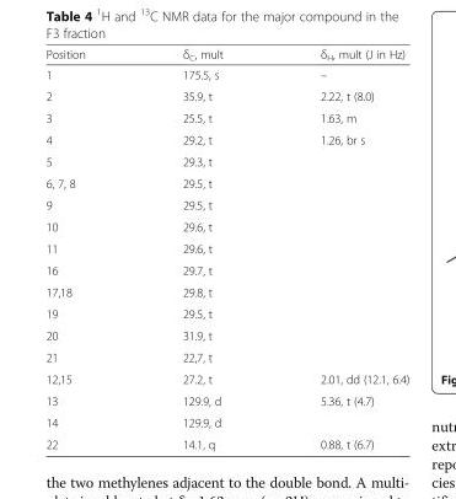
<table><thead><tr><td>Position</td><td>δ<sub>C</sub>, mult</td><td>δ<sub>H</sub>, mult (J in Hz)</td></tr></thead><tbody><tr><td>1</td><td>175.5, s</td><td>–</td></tr><tr><td>2</td><td>35.9, t</td><td>2.22, t (8.0)</td></tr><tr><td>3</td><td>25.5, t</td><td>1.63, m</td></tr><tr><td>4</td><td>29.2, t</td><td rowspan="11">1.26, br s</td></tr><tr><td>5</td><td>29.3, t</td></tr><tr><td>6, 7, 8</td><td>29.5, t</td></tr><tr><td>9</td><td>29.5, t</td></tr><tr><td>10</td><td>29.6, t</td></tr><tr><td>11</td><td>29.6, t</td></tr><tr><td>16</td><td>29.7, t</td></tr><tr><td>17,18</td><td>29.8, t</td></tr><tr><td>19</td><td>29.5, t</td></tr><tr><td>20</td><td>31.9, t</td></tr><tr><td>21</td><td>22,7, t</td></tr><tr><td>12,15</td><td>27.2, t</td><td>2.01, dd (12.1, 6.4)</td></tr><tr><td>13</td><td>129.9, d</td><td rowspan="2">5.36, t (4.7)</td></tr><tr><td>14</td><td>129.9, d</td></tr><tr><td>22</td><td>14.1, q</td><td>0.88, t (6.7)</td></tr></tbody></table>